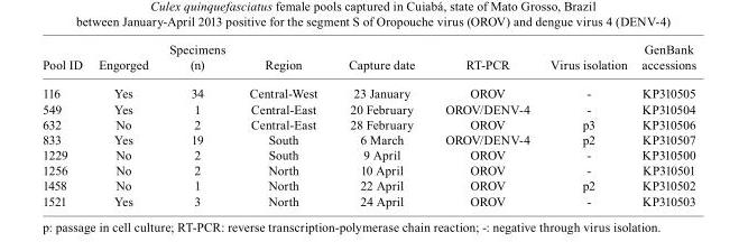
<table><thead><tr><td>Pool ID</td><td>Engorged</td><td>Specimens (n)</td><td>Region</td><td>Capture date</td><td>RT-PCR</td><td>Virus isolation</td><td>GenBank accessions</td></tr></thead><tbody><tr><td>116</td><td>Yes</td><td>34</td><td>Central-West</td><td>23 January</td><td>OROV</td><td>-</td><td>KP310505</td></tr><tr><td>549</td><td>Yes</td><td>1</td><td>Central-East</td><td>20 February</td><td>OROV/DENV-4</td><td>-</td><td>KP310504</td></tr><tr><td>632</td><td>No</td><td>2</td><td>Central-East</td><td>28 February</td><td>OROV</td><td>p3</td><td>KP310506</td></tr><tr><td>833</td><td>Yes</td><td>19</td><td>South</td><td>6 March</td><td>OROV/DENV-4</td><td>p2</td><td>KP310507</td></tr><tr><td>1229</td><td>No</td><td>2</td><td>South</td><td>9 April</td><td>OROV</td><td>-</td><td>KP310500</td></tr><tr><td>1256</td><td>No</td><td>2</td><td>North</td><td>10 April</td><td>OROV</td><td>-</td><td>KP310501</td></tr><tr><td>1458</td><td>No</td><td>1</td><td>North</td><td>22 April</td><td>OROV</td><td>p2</td><td>KP310502</td></tr><tr><td>1521</td><td>Yes</td><td>3</td><td>North</td><td>24 April</td><td>OROV</td><td>-</td><td>KP310503</td></tr></tbody></table>